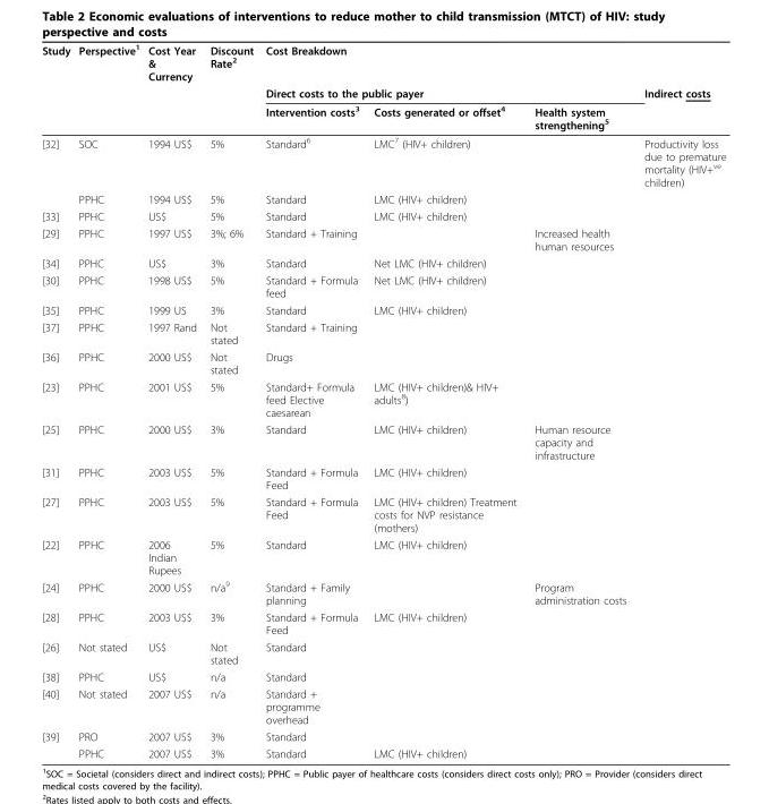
<table><thead><tr><td rowspan="3">Study</td><td rowspan="3">Perspective<sup>1</sup></td><td rowspan="3">Cost Year &amp; Currency</td><td rowspan="3">Discount Rate<sup>2</sup></td><td colspan="4">Cost Breakdown</td></tr><tr><td colspan="3">Direct costs to the public payer</td><td rowspan="2">Indirect costs</td></tr><tr><td>Intervention costs<sup>3</sup></td><td>Costs generated or offset<sup>4</sup></td><td>Health system strengthening<sup>5</sup></td></tr></thead><tbody><tr><td rowspan="2">[32]</td><td>SOC</td><td>1994 US$</td><td>5%</td><td>Standard<sup>6</sup></td><td>LMC<sup>7</sup> (HIV+ children)</td><td></td><td>Productivity loss due to premature mortality (HIV+<sup>ve</sup> children)</td></tr><tr><td>PPHC</td><td>1994 US$</td><td>5%</td><td>Standard</td><td>LMC (HIV+ children)</td><td></td><td></td></tr><tr><td>[33]</td><td>PPHC</td><td>US$</td><td>5%</td><td>Standard</td><td>LMC (HIV+ children)</td><td></td><td></td></tr><tr><td>[29]</td><td>PPHC</td><td>1997 US$</td><td>3%; 6%</td><td>Standard + Training</td><td></td><td>Increased health human resources</td><td></td></tr><tr><td>[34]</td><td>PPHC</td><td>US$</td><td>3%</td><td>Standard</td><td>Net LMC (HIV+ children)</td><td></td><td></td></tr><tr><td>[30]</td><td>PPHC</td><td>1998 US$</td><td>5%</td><td>Standard + Formula feed</td><td>Net LMC (HIV+ children)</td><td></td><td></td></tr><tr><td>[35]</td><td>PPHC</td><td>1999 US</td><td>3%</td><td>Standard</td><td>LMC (HIV+ children)</td><td></td><td></td></tr><tr><td>[37]</td><td>PPHC</td><td>1997 Rand</td><td>Not stated</td><td>Standard + Training</td><td></td><td></td><td></td></tr><tr><td>[36]</td><td>PPHC</td><td>2000 US$</td><td>Not stated</td><td>Drugs</td><td></td><td></td><td></td></tr><tr><td>[23]</td><td>PPHC</td><td>2001 US$</td><td>5%</td><td>Standard+ Formula feed Elective caesarean</td><td>LMC (HIV+ children)&amp; HIV+ adults<sup>8</sup>)</td><td></td><td></td></tr><tr><td>[25]</td><td>PPHC</td><td>2000 US$</td><td>3%</td><td>Standard</td><td>LMC (HIV+ children)</td><td>Human resource capacity and infrastructure</td><td></td></tr><tr><td>[31]</td><td>PPHC</td><td>2003 US$</td><td>5%</td><td>Standard + Formula Feed</td><td>LMC (HIV+ children)</td><td></td><td></td></tr><tr><td>[27]</td><td>PPHC</td><td>2003 US$</td><td>5%</td><td>Standard + Formula Feed</td><td>LMC (HIV+ children) Treatment costs for NVP resistance (mothers)</td><td></td><td></td></tr><tr><td>[22]</td><td>PPHC</td><td>2006 Indian Rupees</td><td>5%</td><td>Standard</td><td>LMC (HIV+ children)</td><td></td><td></td></tr><tr><td>[24]</td><td>PPHC</td><td>2000 US$</td><td>n/a<sup>9</sup></td><td>Standard + Family planning</td><td></td><td>Program administration costs</td><td></td></tr><tr><td>[28]</td><td>PPHC</td><td>2003 US$</td><td>3%</td><td>Standard + Formula Feed</td><td>LMC (HIV+ children)</td><td></td><td></td></tr><tr><td>[26]</td><td>Not stated</td><td>US$</td><td>Not stated</td><td>Standard</td><td></td><td></td><td></td></tr><tr><td>[38]</td><td>PPHC</td><td>US$</td><td>n/a</td><td>Standard</td><td></td><td></td><td></td></tr><tr><td>[40]</td><td>Not stated</td><td>2007 US$</td><td>n/a</td><td>Standard + programme overhead</td><td></td><td></td><td></td></tr><tr><td rowspan="2">[39]</td><td>PRO</td><td>2007 US$</td><td>3%</td><td>Standard</td><td></td><td></td><td></td></tr><tr><td>PPHC</td><td>2007 US$</td><td>3%</td><td>Standard</td><td>LMC (HIV+ children)</td><td></td><td></td></tr></tbody></table>